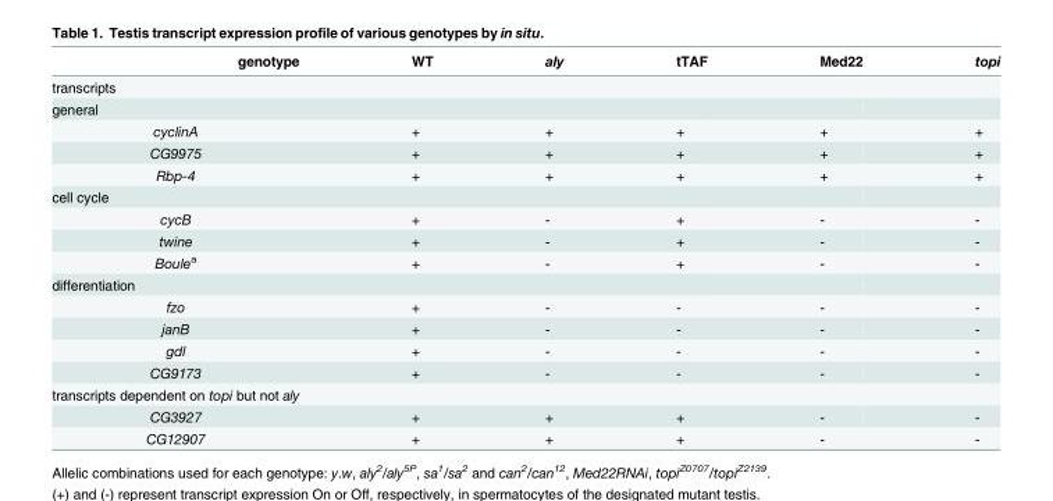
<table><thead><tr><td>genotype</td><td>WT</td><td>aly</td><td>tTAF</td><td>Med22</td><td>topi</td></tr></thead><tbody><tr><td colspan="6">transcripts</td></tr><tr><td colspan="6">general</td></tr><tr><td>cyclinA</td><td>+</td><td>+</td><td>+</td><td>+</td><td>+</td></tr><tr><td>CG9975</td><td>+</td><td>+</td><td>+</td><td>+</td><td>+</td></tr><tr><td>Rbp-4</td><td>+</td><td>+</td><td>+</td><td>+</td><td>+</td></tr><tr><td colspan="6">cell cycle</td></tr><tr><td>cycB</td><td>+</td><td>-</td><td>+</td><td>-</td><td>-</td></tr><tr><td>twine</td><td>+</td><td>-</td><td>+</td><td>-</td><td>-</td></tr><tr><td>Boule<sup>a</sup></td><td>+</td><td>-</td><td>+</td><td>-</td><td>-</td></tr><tr><td colspan="6">differentiation</td></tr><tr><td>fzo</td><td>+</td><td>-</td><td>-</td><td>-</td><td>-</td></tr><tr><td>janB</td><td>+</td><td>-</td><td>-</td><td>-</td><td>-</td></tr><tr><td>gdl</td><td>+</td><td>-</td><td>-</td><td>-</td><td>-</td></tr><tr><td>CG9173</td><td>+</td><td>-</td><td>-</td><td>-</td><td>-</td></tr><tr><td colspan="6">transcripts dependent on topi but not aly</td></tr><tr><td>CG3927</td><td>+</td><td>+</td><td>+</td><td>-</td><td>-</td></tr><tr><td>CG12907</td><td>+</td><td>+</td><td>+</td><td>-</td><td>-</td></tr></tbody></table>